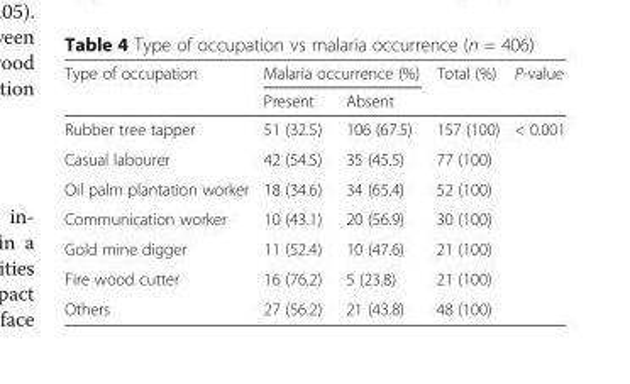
<table><thead><tr><td rowspan="2">Type of occupation</td><td colspan="2">Malaria occurrence (%)</td><td rowspan="2">Total (%)</td><td rowspan="2">P-value</td></tr><tr><td>Present</td><td>Absent</td></tr></thead><tbody><tr><td>Rubber tree tapper</td><td>51 (32.5)</td><td>106 (67.5)</td><td>157 (100)</td><td rowspan="7">&lt; 0.001</td></tr><tr><td>Casual labourer</td><td>42 (54.5)</td><td>35 (45.5)</td><td>77 (100)</td></tr><tr><td>Oil palm plantation worker</td><td>18 (34.6)</td><td>34 (65.4)</td><td>52 (100)</td></tr><tr><td>Communication worker</td><td>10 (43.1)</td><td>20 (56.9)</td><td>30 (100)</td></tr><tr><td>Gold mine digger</td><td>11 (52.4)</td><td>10 (47.6)</td><td>21 (100)</td></tr><tr><td>Fire wood cutter</td><td>16 (76.2)</td><td>5 (23.8)</td><td>21 (100)</td></tr><tr><td>Others</td><td>27 (56.2)</td><td>21 (43.8)</td><td>48 (100)</td></tr></tbody></table>